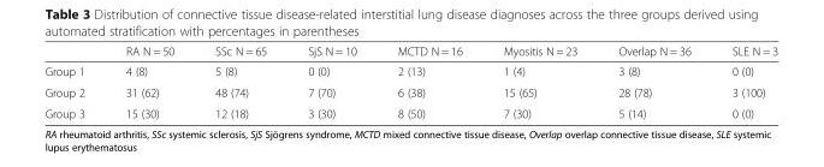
<table><thead><tr><td></td><td>RA N = 50</td><td>SSc N = 65</td><td>SjS N = 10</td><td>MCTD N = 16</td><td>Myositis N = 23</td><td>Overlap N = 36</td><td>SLE N = 3</td></tr></thead><tbody><tr><td>Group 1</td><td>4 (8)</td><td>5 (8)</td><td>0 (0)</td><td>2 (13)</td><td>1 (4)</td><td>3 (8)</td><td>0 (0)</td></tr><tr><td>Group 2</td><td>31 (62)</td><td>48 (74)</td><td>7 (70)</td><td>6 (38)</td><td>15 (65)</td><td>28 (78)</td><td>3 (100)</td></tr><tr><td>Group 3</td><td>15 (30)</td><td>12 (18)</td><td>3 (30)</td><td>8 (50)</td><td>7 (30)</td><td>5 (14)</td><td>0 (0)</td></tr></tbody></table>